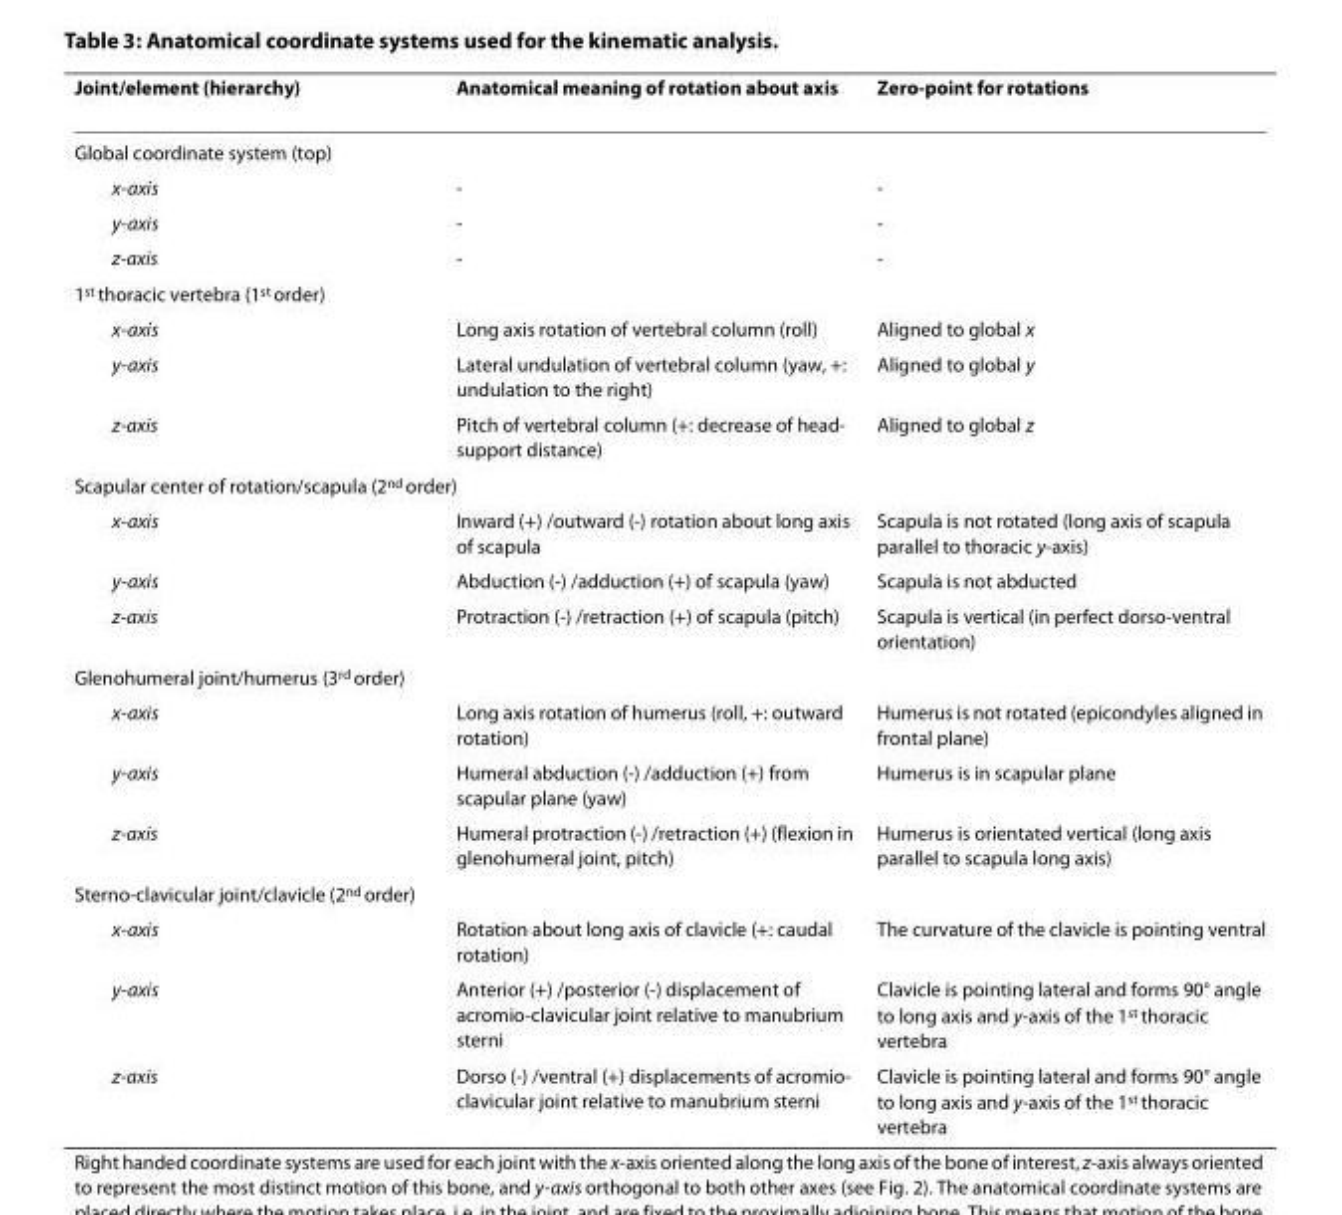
<table><thead><tr><td>Joint/element (hierarchy)</td><td>Anatomical meaning of rotation about axis</td><td>Zero-point for rotations</td></tr></thead><tbody><tr><td colspan="3">Global coordinate system (top)</td></tr><tr><td>x-axis</td><td>-</td><td>-</td></tr><tr><td>y-axis</td><td>-</td><td>-</td></tr><tr><td>z-axis</td><td>-</td><td>-</td></tr><tr><td colspan="3">1<sup>st</sup> thoracic vertebra (1<sup>st</sup> order)</td></tr><tr><td>x-axis</td><td>Long axis rotation of vertebral column (roll)</td><td>Aligned to global x</td></tr><tr><td>y-axis</td><td>Lateral undulation of vertebral column (yaw, +: undulation to the right)</td><td>Aligned to global y</td></tr><tr><td>z-axis</td><td>Pitch of vertebral column (+: decrease of head- support distance)</td><td>Aligned to global z</td></tr><tr><td colspan="3">Scapular center of rotation/scapula (2<sup>nd</sup> order)</td></tr><tr><td>x-axis</td><td>Inward (+) /outward (-) rotation about long axis of scapula</td><td>Scapula is not rotated (long axis of scapula parallel to thoracic y-axis)</td></tr><tr><td>y-axis</td><td>Abduction (-) /adduction (+) of scapula (yaw)</td><td>Scapula is not abducted</td></tr><tr><td>z-axis</td><td>Protraction (-) /retraction (+) of scapula (pitch)</td><td>Scapula is vertical (in perfect dorso-ventral orientation)</td></tr><tr><td colspan="3">Glenohumeral joint/humerus (3<sup>rd</sup> order)</td></tr><tr><td>x-axis</td><td>Long axis rotation of humerus (roll, +: outward rotation)</td><td>Humerus is not rotated (epicondyles aligned in frontal plane)</td></tr><tr><td>y-axis</td><td>Humeral abduction (-) /adduction (+) from scapular plane (yaw)</td><td>Humerus is in scapular plane</td></tr><tr><td>z-axis</td><td>Humeral protraction (-) /retraction (+) (flexion in glenohumeral joint, pitch)</td><td>Humerus is orientated vertical (long axis parallel to scapula long axis)</td></tr><tr><td colspan="3">Sterno-clavicular joint/clavicle (2<sup>nd</sup> order)</td></tr><tr><td>x-axis</td><td>Rotation about long axis of clavicle (+: caudal rotation)</td><td>The curvature of the clavicle is pointing ventral</td></tr><tr><td>y-axis</td><td>Anterior (+) /posterior (-) displacement of acromio-clavicular joint relative to manubrium sterni</td><td>Clavicle is pointing lateral and forms 90° angle to long axis and y-axis of the 1<sup>st</sup> thoracic vertebra</td></tr><tr><td>z-axis</td><td>Dorso (-) /ventral (+) displacements of acromio- clavicular joint relative to manubrium sterni</td><td>Clavicle is pointing lateral and forms 90° angle to long axis and y-axis of the 1<sup>st</sup> thoracic vertebra</td></tr></tbody></table>